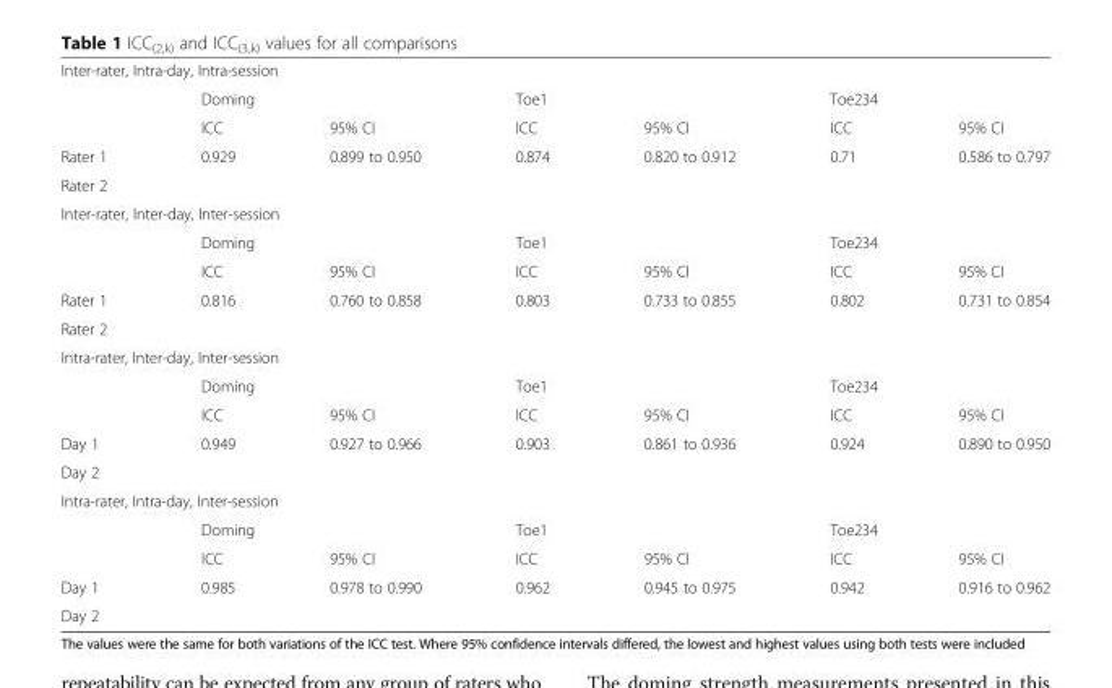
<table><tbody><tr><td colspan="7">Inter-rater, Intra-day, Intra-session</td></tr><tr><td></td><td colspan="2">Doming</td><td colspan="2">Toe1</td><td colspan="2">Toe234</td></tr><tr><td></td><td>ICC</td><td>95% CI</td><td>ICC</td><td>95% CI</td><td>ICC</td><td>95% CI</td></tr><tr><td>Rater 1</td><td rowspan="2">0.929</td><td rowspan="2">0.899 to 0.950</td><td rowspan="2">0.874</td><td rowspan="2">0.820 to 0.912</td><td rowspan="2">0.71</td><td rowspan="2">0.586 to 0.797</td></tr><tr><td>Rater 2</td></tr><tr><td colspan="7">Inter-rater, Inter-day, Inter-session</td></tr><tr><td></td><td colspan="2">Doming</td><td colspan="2">Toe1</td><td colspan="2">Toe234</td></tr><tr><td></td><td>ICC</td><td>95% CI</td><td>ICC</td><td>95% CI</td><td>ICC</td><td>95% CI</td></tr><tr><td>Rater 1</td><td rowspan="2">0.816</td><td rowspan="2">0.760 to 0.858</td><td rowspan="2">0.803</td><td rowspan="2">0.733 to 0.855</td><td rowspan="2">0.802</td><td rowspan="2">0.731 to 0.854</td></tr><tr><td>Rater 2</td></tr><tr><td colspan="7">Intra-rater, Inter-day, Inter-session</td></tr><tr><td></td><td colspan="2">Doming</td><td colspan="2">Toe1</td><td colspan="2">Toe234</td></tr><tr><td></td><td>ICC</td><td>95% CI</td><td>ICC</td><td>95% CI</td><td>ICC</td><td>95% CI</td></tr><tr><td>Day 1</td><td rowspan="2">0.949</td><td rowspan="2">0.927 to 0.966</td><td rowspan="2">0.903</td><td rowspan="2">0.861 to 0.936</td><td rowspan="2">0.924</td><td rowspan="2">0.890 to 0.950</td></tr><tr><td>Day 2</td></tr><tr><td colspan="7">Intra-rater, Intra-day, Inter-session</td></tr><tr><td></td><td colspan="2">Doming</td><td colspan="2">Toe1</td><td colspan="2">Toe234</td></tr><tr><td></td><td>ICC</td><td>95% CI</td><td>ICC</td><td>95% CI</td><td>ICC</td><td>95% CI</td></tr><tr><td>Day 1</td><td rowspan="2">0.985</td><td rowspan="2">0.978 to 0.990</td><td rowspan="2">0.962</td><td rowspan="2">0.945 to 0.975</td><td rowspan="2">0.942</td><td rowspan="2">0.916 to 0.962</td></tr><tr><td>Day 2</td></tr></tbody></table>